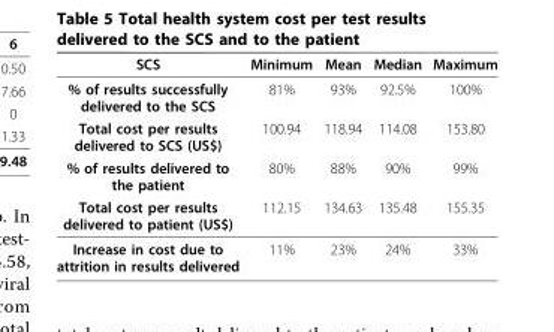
<table><thead><tr><td>SCS</td><td>Minimum</td><td>Mean</td><td>Median</td><td>Maximum</td></tr></thead><tbody><tr><td>% of results successfully delivered to the SCS</td><td>81%</td><td>93%</td><td>92.5%</td><td>100%</td></tr><tr><td>Total cost per results delivered to SCS (US$)</td><td>100.94</td><td>118.94</td><td>114.08</td><td>153.80</td></tr><tr><td>% of results delivered to the patient</td><td>80%</td><td>88%</td><td>90%</td><td>99%</td></tr><tr><td>Total cost per results delivered to patient (US$)</td><td>112.15</td><td>134.63</td><td>135.48</td><td>155.35</td></tr><tr><td>Increase in cost due to attrition in results delivered</td><td>11%</td><td>23%</td><td>24%</td><td>33%</td></tr></tbody></table>